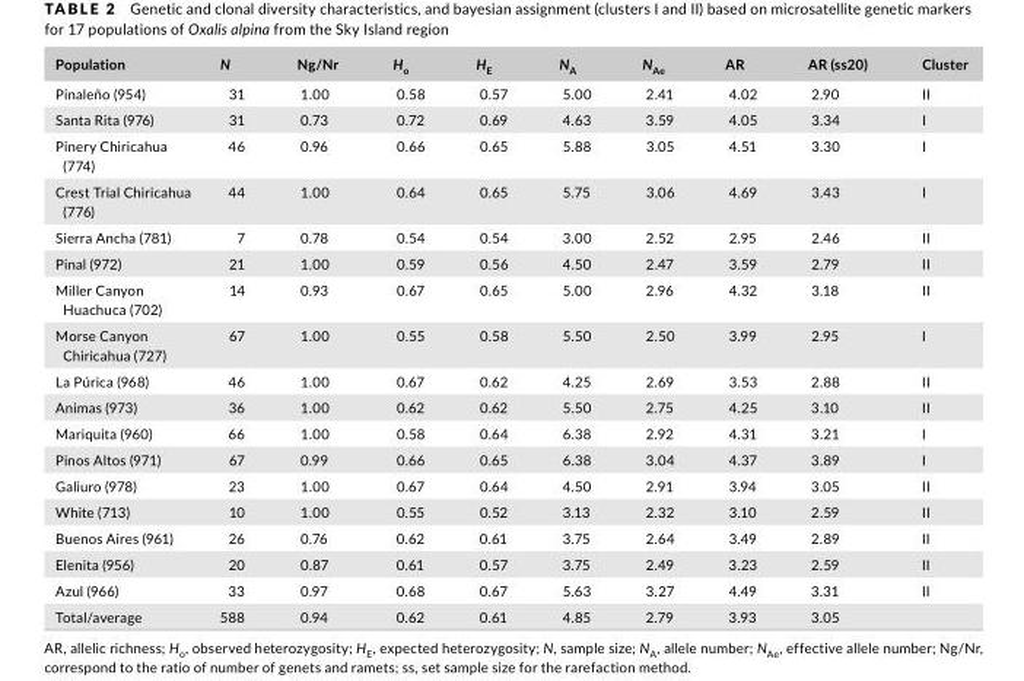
<table><thead><tr><td>Population</td><td>N</td><td>Ng/Nr</td><td>H<sub>o</sub></td><td>H<sub>E</sub></td><td>N<sub>A</sub></td><td>N<sub>Ae</sub></td><td>AR</td><td>AR (ss20)</td><td>Cluster</td></tr></thead><tbody><tr><td>Pinaleño (954)</td><td>31</td><td>1.00</td><td>0.58</td><td>0.57</td><td>5.00</td><td>2.41</td><td>4.02</td><td>2.90</td><td>II</td></tr><tr><td>Santa Rita (976)</td><td>31</td><td>0.73</td><td>0.72</td><td>0.69</td><td>4.63</td><td>3.59</td><td>4.05</td><td>3.34</td><td>I</td></tr><tr><td>Pinery Chiricahua (774)</td><td>46</td><td>0.96</td><td>0.66</td><td>0.65</td><td>5.88</td><td>3.05</td><td>4.51</td><td>3.30</td><td>I</td></tr><tr><td>Crest Trial Chiricahua (776)</td><td>44</td><td>1.00</td><td>0.64</td><td>0.65</td><td>5.75</td><td>3.06</td><td>4.69</td><td>3.43</td><td>I</td></tr><tr><td>Sierra Ancha (781)</td><td>7</td><td>0.78</td><td>0.54</td><td>0.54</td><td>3.00</td><td>2.52</td><td>2.95</td><td>2.46</td><td>II</td></tr><tr><td>Pinal (972)</td><td>21</td><td>1.00</td><td>0.59</td><td>0.56</td><td>4.50</td><td>2.47</td><td>3.59</td><td>2.79</td><td>II</td></tr><tr><td>Miller Canyon Huachuca (702)</td><td>14</td><td>0.93</td><td>0.67</td><td>0.65</td><td>5.00</td><td>2.96</td><td>4.32</td><td>3.18</td><td>II</td></tr><tr><td>Morse Canyon Chiricahua (727)</td><td>67</td><td>1.00</td><td>0.55</td><td>0.58</td><td>5.50</td><td>2.50</td><td>3.99</td><td>2.95</td><td>I</td></tr><tr><td>La Púrica (968)</td><td>46</td><td>1.00</td><td>0.67</td><td>0.62</td><td>4.25</td><td>2.69</td><td>3.53</td><td>2.88</td><td>II</td></tr><tr><td>Animas (973)</td><td>36</td><td>1.00</td><td>0.62</td><td>0.62</td><td>5.50</td><td>2.75</td><td>4.25</td><td>3.10</td><td>II</td></tr><tr><td>Mariquita (960)</td><td>66</td><td>1.00</td><td>0.58</td><td>0.64</td><td>6.38</td><td>2.92</td><td>4.31</td><td>3.21</td><td>I</td></tr><tr><td>Pinos Altos (971)</td><td>67</td><td>0.99</td><td>0.66</td><td>0.65</td><td>6.38</td><td>3.04</td><td>4.37</td><td>3.89</td><td>I</td></tr><tr><td>Galiuro (978)</td><td>23</td><td>1.00</td><td>0.67</td><td>0.64</td><td>4.50</td><td>2.91</td><td>3.94</td><td>3.05</td><td>II</td></tr><tr><td>White (713)</td><td>10</td><td>1.00</td><td>0.55</td><td>0.52</td><td>3.13</td><td>2.32</td><td>3.10</td><td>2.59</td><td>II</td></tr><tr><td>Buenos Aires (961)</td><td>26</td><td>0.76</td><td>0.62</td><td>0.61</td><td>3.75</td><td>2.64</td><td>3.49</td><td>2.89</td><td>II</td></tr><tr><td>Elenita (956)</td><td>20</td><td>0.87</td><td>0.61</td><td>0.57</td><td>3.75</td><td>2.49</td><td>3.23</td><td>2.59</td><td>II</td></tr><tr><td>Azul (966)</td><td>33</td><td>0.97</td><td>0.68</td><td>0.67</td><td>5.63</td><td>3.27</td><td>4.49</td><td>3.31</td><td>II</td></tr><tr><td>Total/average</td><td>588</td><td>0.94</td><td>0.62</td><td>0.61</td><td>4.85</td><td>2.79</td><td>3.93</td><td>3.05</td><td></td></tr></tbody></table>